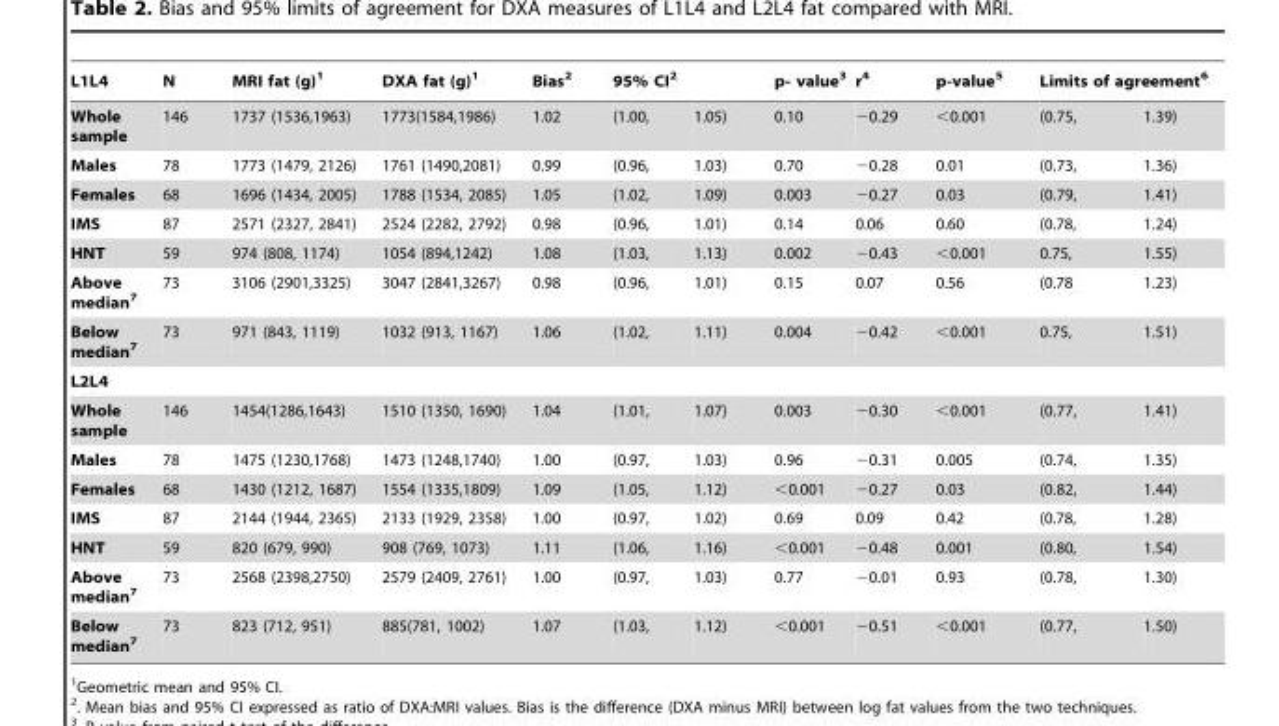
<table><thead><tr><td rowspan="2">L1L4 Whole sample</td><td rowspan="2">N 146</td><td rowspan="2">MRI fat (g)<sup>1</sup> 1737 (1536,1963)</td><td rowspan="2">DXA fat (g)<sup>1</sup> 1773(1584,1986)</td><td rowspan="2">Bias<sup>2</sup> 1.02</td><td colspan="2">95% CI<sup>2</sup></td><td rowspan="2">p- value<sup>3</sup> 0.10</td><td rowspan="2">r<sup>4</sup> −0.29</td><td rowspan="2">p-value<sup>5</sup> &lt;0.001</td><td colspan="2">Limits of agreement<sup>6</sup></td></tr><tr><td>(1.00,</td><td>1.05)</td><td>(0.75,</td><td>1.39)</td></tr></thead><tbody><tr><td>Males</td><td>78</td><td>1773 (1479, 2126)</td><td>1761 (1490,2081)</td><td>0.99</td><td>(0.96,</td><td>1.03)</td><td>0.70</td><td>−0.28</td><td>0.01</td><td>(0.73,</td><td>1.36)</td></tr><tr><td>Females</td><td>68</td><td>1696 (1434, 2005)</td><td>1788 (1534, 2085)</td><td>1.05</td><td>(1.02,</td><td>1.09)</td><td>0.003</td><td>−0.27</td><td>0.03</td><td>(0.79,</td><td>1.41)</td></tr><tr><td>IMS</td><td>87</td><td>2571 (2327, 2841)</td><td>2524 (2282, 2792)</td><td>0.98</td><td>(0.96,</td><td>1.01)</td><td>0.14</td><td>0.06</td><td>0.60</td><td>(0.78,</td><td>1.24)</td></tr><tr><td>HNT</td><td>59</td><td>974 (808, 1174)</td><td>1054 (894,1242)</td><td>1.08</td><td>(1.03,</td><td>1.13)</td><td>0.002</td><td>−0.43</td><td>&lt;0.001</td><td>0.75,</td><td>1.55)</td></tr><tr><td>Above median7</td><td>73</td><td>3106 (2901,3325)</td><td>3047 (2841,3267)</td><td>0.98</td><td>(0.96,</td><td>1.01)</td><td>0.15</td><td>0.07</td><td>0.56</td><td>(0.78</td><td>1.23)</td></tr><tr><td>Below median7</td><td>73</td><td>971 (843, 1119)</td><td>1032 (913, 1167)</td><td>1.06</td><td>(1.02,</td><td>1.11)</td><td>0.004</td><td>−0.42</td><td>&lt;0.001</td><td>0.75,</td><td>1.51)</td></tr><tr><td colspan="12">L2L4</td></tr><tr><td>Whole sample</td><td>146</td><td>1454(1286,1643)</td><td>1510 (1350, 1690)</td><td>1.04</td><td>(1.01,</td><td>1.07)</td><td>0.003</td><td>−0.30</td><td>&lt;0.001</td><td>(0.77,</td><td>1.41)</td></tr><tr><td>Males</td><td>78</td><td>1475 (1230,1768)</td><td>1473 (1248,1740)</td><td>1.00</td><td>(0.97,</td><td>1.03)</td><td>0.96</td><td>−0.31</td><td>0.005</td><td>(0.74,</td><td>1.35)</td></tr><tr><td>Females</td><td>68</td><td>1430 (1212, 1687)</td><td>1554 (1335,1809)</td><td>1.09</td><td>(1.05,</td><td>1.12)</td><td>&lt;0.001</td><td>−0.27</td><td>0.03</td><td>(0.82,</td><td>1.44)</td></tr><tr><td>IMS</td><td>87</td><td>2144 (1944, 2365)</td><td>2133 (1929, 2358)</td><td>1.00</td><td>(0.97,</td><td>1.02)</td><td>0.69</td><td>0.09</td><td>0.42</td><td>(0.78,</td><td>1.28)</td></tr><tr><td>HNT</td><td>59</td><td>820 (679, 990)</td><td>908 (769, 1073)</td><td>1.11</td><td>(1.06,</td><td>1.16)</td><td>&lt;0.001</td><td>−0.48</td><td>0.001</td><td>(0.80,</td><td>1.54)</td></tr><tr><td>Above median7</td><td>73</td><td>2568 (2398,2750)</td><td>2579 (2409, 2761)</td><td>1.00</td><td>(0.97,</td><td>1.03)</td><td>0.77</td><td>−0.01</td><td>0.93</td><td>(0.78,</td><td>1.30)</td></tr><tr><td>Below median7</td><td>73</td><td>823 (712, 951)</td><td>885(781, 1002)</td><td>1.07</td><td>(1.03,</td><td>1.12)</td><td>&lt;0.001</td><td>−0.51</td><td>&lt;0.001</td><td>(0.77,</td><td>1.50)</td></tr></tbody></table>